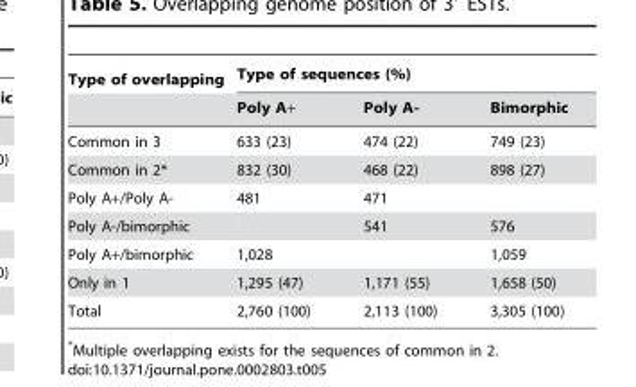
<table><thead><tr><td rowspan="2">Type of overlapping</td><td colspan="3">Type of sequences (%)</td></tr><tr><td>Poly A+</td><td>Poly A-</td><td>Bimorphic</td></tr></thead><tbody><tr><td>Common in 3</td><td>633 (23)</td><td>474 (22)</td><td>749 (23)</td></tr><tr><td>Common in 2*</td><td>832 (30)</td><td>468 (22)</td><td>898 (27)</td></tr><tr><td>Poly A+/Poly A-</td><td>481</td><td>471</td><td></td></tr><tr><td>Poly A-/bimorphic</td><td></td><td>541</td><td>576</td></tr><tr><td>Poly A+/bimorphic</td><td>1,028</td><td></td><td>1,059</td></tr><tr><td>Only in 1</td><td>1,295 (47)</td><td>1,171 (55)</td><td>1,658 (50)</td></tr><tr><td>Total</td><td>2,760 (100)</td><td>2,113 (100)</td><td>3,305 (100)</td></tr></tbody></table>